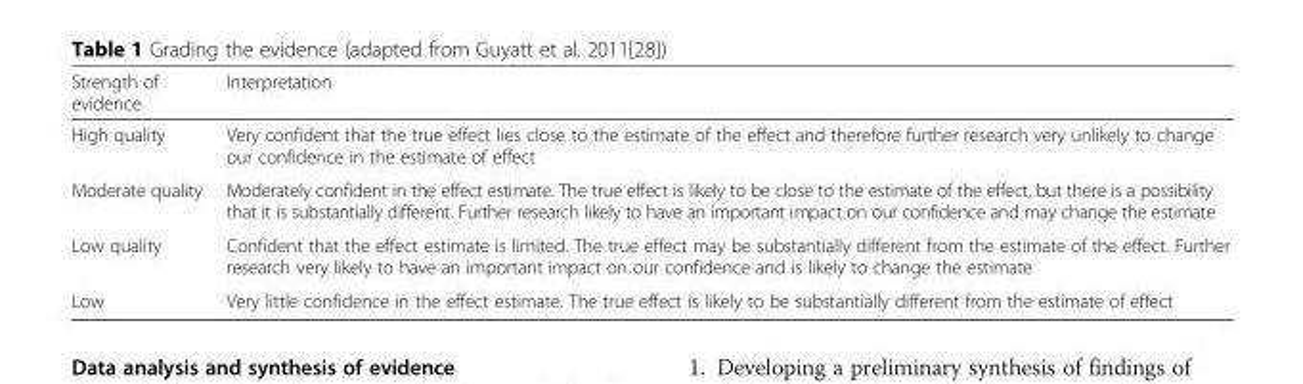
<table><thead><tr><td>Strength of evidence</td><td>Interpretation</td></tr></thead><tbody><tr><td>High quality</td><td>Very confident that the true effect lies close to the estimate of the effect and therefore further research very unlikely to change our confidence in the estimate of effect</td></tr><tr><td>Moderate quality</td><td>Moderately confident in the effect estimate. The true effect is likely to be close to the estimate of the effect, but there is a possibility that it is substantially different. Further research likely to have an important impact on our confidence and may change the estimate</td></tr><tr><td>Low quality</td><td>Confident that the effect estimate is limited. The true effect may be substantially different from the estimate of the effect. Further research very likely to have an important impact on our confidence and is likely to change the estimate</td></tr><tr><td>Low</td><td>Very little confidence in the effect estimate. The true effect is likely to be substantially different from the estimate of effect</td></tr></tbody></table>